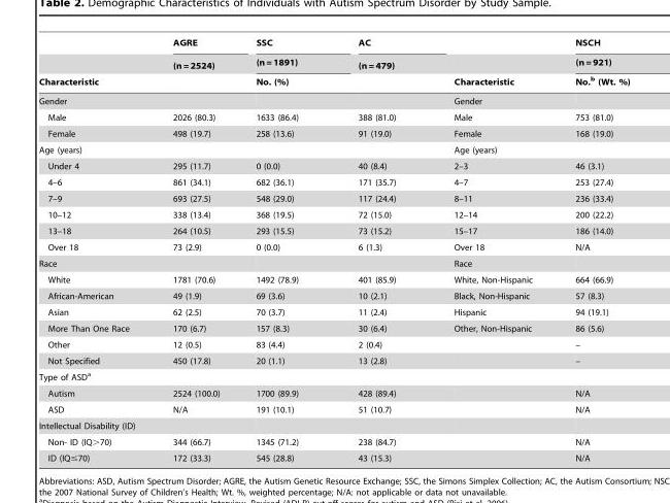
<table><thead><tr><td rowspan="3">Characteristic</td><td rowspan="3">AGRE (n = 2524)</td><td rowspan="3">SSC (n = 1891) No. (%)</td><td rowspan="3">AC (n = 479)</td><td rowspan="3">Characteristic</td><td rowspan="3">NSCH (n = 921) No.<sup>b</sup> (Wt. %)</td></tr><tr></tr><tr></tr></thead><tbody><tr><td>Gender</td><td></td><td></td><td></td><td>Gender</td><td></td></tr><tr><td>Male</td><td>2026 (80.3)</td><td>1633 (86.4)</td><td>388 (81.0)</td><td>Male</td><td>753 (81.0)</td></tr><tr><td>Female</td><td>498 (19.7)</td><td>258 (13.6)</td><td>91 (19.0)</td><td>Female</td><td>168 (19.0)</td></tr><tr><td>Age (years)</td><td></td><td></td><td></td><td>Age (years)</td><td></td></tr><tr><td>Under 4</td><td>295 (11.7)</td><td>0 (0.0)</td><td>40 (8.4)</td><td>2–3</td><td>46 (3.1)</td></tr><tr><td>4–6</td><td>861 (34.1)</td><td>682 (36.1)</td><td>171 (35.7)</td><td>4–7</td><td>253 (27.4)</td></tr><tr><td>7–9</td><td>693 (27.5)</td><td>548 (29.0)</td><td>117 (24.4)</td><td>8–11</td><td>236 (33.4)</td></tr><tr><td>10–12</td><td>338 (13.4)</td><td>368 (19.5)</td><td>72 (15.0)</td><td>12–14</td><td>200 (22.2)</td></tr><tr><td>13–18</td><td>264 (10.5)</td><td>293 (15.5)</td><td>73 (15.2)</td><td>15–17</td><td>186 (14.0)</td></tr><tr><td>Over 18</td><td>73 (2.9)</td><td>0 (0.0)</td><td>6 (1.3)</td><td>Over 18</td><td>N/A</td></tr><tr><td>Race</td><td></td><td></td><td></td><td>Race</td><td></td></tr><tr><td>White</td><td>1781 (70.6)</td><td>1492 (78.9)</td><td>401 (85.9)</td><td>White, Non-Hispanic</td><td>664 (66.9)</td></tr><tr><td>African-American</td><td>49 (1.9)</td><td>69 (3.6)</td><td>10 (2.1)</td><td>Black, Non-Hispanic</td><td>57 (8.3)</td></tr><tr><td>Asian</td><td>62 (2.5)</td><td>70 (3.7)</td><td>11 (2.4)</td><td>Hispanic</td><td>94 (19.1)</td></tr><tr><td>More Than One Race</td><td>170 (6.7)</td><td>157 (8.3)</td><td>30 (6.4)</td><td>Other, Non-Hispanic</td><td>86 (5.6)</td></tr><tr><td>Other</td><td>12 (0.5)</td><td>83 (4.4)</td><td>2 (0.4)</td><td></td><td>–</td></tr><tr><td>Not Specified</td><td>450 (17.8)</td><td>20 (1.1)</td><td>13 (2.8)</td><td></td><td>–</td></tr><tr><td colspan="6">Type of ASD<sup>a</sup></td></tr><tr><td>Autism</td><td>2524 (100.0)</td><td>1700 (89.9)</td><td>428 (89.4)</td><td></td><td>N/A</td></tr><tr><td>ASD</td><td>N/A</td><td>191 (10.1)</td><td>51 (10.7)</td><td></td><td>N/A</td></tr><tr><td colspan="6">Intellectual Disability (ID)</td></tr><tr><td>Non- ID (IQ&gt;70)</td><td>344 (66.7)</td><td>1345 (71.2)</td><td>238 (84.7)</td><td></td><td>N/A</td></tr><tr><td>ID (IQ≤70)</td><td>172 (33.3)</td><td>545 (28.8)</td><td>43 (15.3)</td><td></td><td>N/A</td></tr></tbody></table>